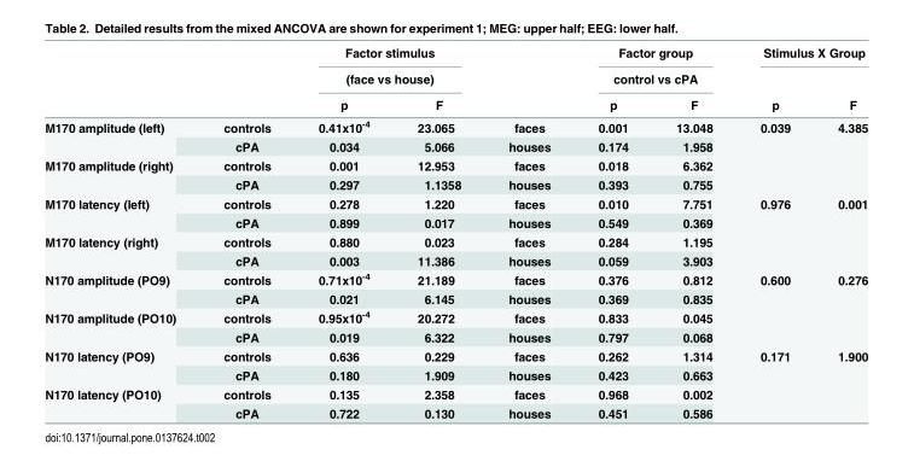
<table><thead><tr><td rowspan="3"></td><td rowspan="3"></td><td rowspan="2" colspan="2">Factor stimulus (face vs house)</td><td rowspan="3"></td><td rowspan="2" colspan="2">Factor group control vs cPA</td><td colspan="2">Stimulus X Group</td></tr><tr><td rowspan="2">p</td><td rowspan="2">F</td></tr><tr><td>p</td><td>F</td><td>p</td><td>F</td></tr></thead><tbody><tr><td rowspan="2">M170 amplitude (left)</td><td>controls</td><td>0.41x10<sup>-4</sup></td><td>23.065</td><td>faces</td><td>0.001</td><td>13.048</td><td rowspan="4">0.039</td><td rowspan="4">4.385</td></tr><tr><td>cPA</td><td>0.034</td><td>5.066</td><td>houses</td><td>0.174</td><td>1.958</td></tr><tr><td rowspan="2">M170 amplitude (right)</td><td>controls</td><td>0.001</td><td>12.953</td><td>faces</td><td>0.018</td><td>6.362</td></tr><tr><td>cPA</td><td>0.297</td><td>1.1358</td><td>houses</td><td>0.393</td><td>0.755</td></tr><tr><td rowspan="2">M170 latency (left)</td><td>controls</td><td>0.278</td><td>1.220</td><td>faces</td><td>0.010</td><td>7.751</td><td rowspan="4">0.976</td><td rowspan="4">0.001</td></tr><tr><td>cPA</td><td>0.899</td><td>0.017</td><td>houses</td><td>0.549</td><td>0.369</td></tr><tr><td rowspan="2">M170 latency (right)</td><td>controls</td><td>0.880</td><td>0.023</td><td>faces</td><td>0.284</td><td>1.195</td></tr><tr><td>cPA</td><td>0.003</td><td>11.386</td><td>houses</td><td>0.059</td><td>3.903</td></tr><tr><td rowspan="2">N170 amplitude (PO9)</td><td>controls</td><td>0.71x10<sup>-4</sup></td><td>21.189</td><td>faces</td><td>0.376</td><td>0.812</td><td rowspan="4">0.600</td><td rowspan="4">0.276</td></tr><tr><td>cPA</td><td>0.021</td><td>6.145</td><td>houses</td><td>0.369</td><td>0.835</td></tr><tr><td rowspan="2">N170 amplitude (PO10)</td><td>controls</td><td>0.95x10<sup>-4</sup></td><td>20.272</td><td>faces</td><td>0.833</td><td>0.045</td></tr><tr><td>cPA</td><td>0.019</td><td>6.322</td><td>houses</td><td>0.797</td><td>0.068</td></tr><tr><td rowspan="2">N170 latency (PO9)</td><td>controls</td><td>0.636</td><td>0.229</td><td>faces</td><td>0.262</td><td>1.314</td><td rowspan="4">0.171</td><td rowspan="4">1.900</td></tr><tr><td>cPA</td><td>0.180</td><td>1.909</td><td>houses</td><td>0.423</td><td>0.663</td></tr><tr><td rowspan="2">N170 latency (PO10)</td><td>controls</td><td>0.135</td><td>2.358</td><td>faces</td><td>0.968</td><td>0.002</td></tr><tr><td>cPA</td><td>0.722</td><td>0.130</td><td>houses</td><td>0.451</td><td>0.586</td></tr></tbody></table>